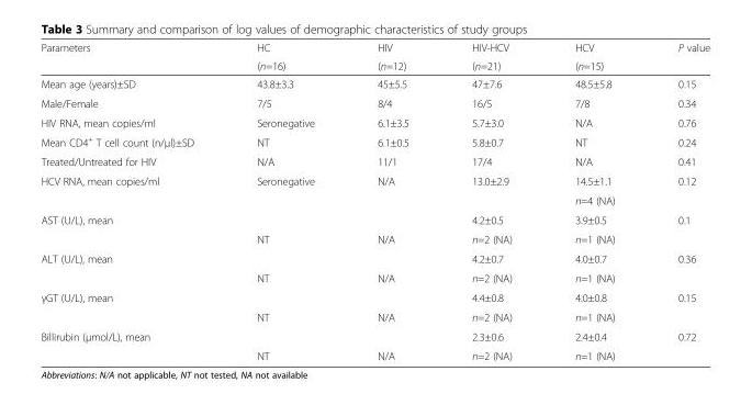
<table><thead><tr><td rowspan="2">Parameters</td><td rowspan="2">HC (n=16)</td><td rowspan="2">HIV (n=12)</td><td rowspan="2">HIV-HCV (n=21)</td><td rowspan="2">HCV (n=15)</td><td rowspan="2">P value</td></tr><tr></tr></thead><tbody><tr><td>Mean age (years)±SD</td><td>43.8±3.3</td><td>45±5.5</td><td>47±7.6</td><td>48.5±5.8</td><td>0.15</td></tr><tr><td>Male/Female</td><td>7/5</td><td>8/4</td><td>16/5</td><td>7/8</td><td>0.34</td></tr><tr><td>HIV RNA, mean copies/ml</td><td>Seronegative</td><td>6.1±3.5</td><td>5.7±3.0</td><td>N/A</td><td>0.76</td></tr><tr><td>Mean CD4<sup>+</sup> T cell count (n/µl)±SD</td><td>NT</td><td>6.1±0.5</td><td>5.8±0.7</td><td>NT</td><td>0.24</td></tr><tr><td>Treated/Untreated for HIV</td><td>N/A</td><td>11/1</td><td>17/4</td><td>N/A</td><td>0.41</td></tr><tr><td rowspan="2">HCV RNA, mean copies/ml</td><td rowspan="2">Seronegative</td><td rowspan="2">N/A</td><td rowspan="2">13.0±2.9</td><td>14.5±1.1</td><td rowspan="2">0.12</td></tr><tr><td>n=4 (NA)</td></tr><tr><td rowspan="2">AST (U/L), mean</td><td></td><td></td><td>4.2±0.5</td><td>3.9±0.5</td><td>0.1</td></tr><tr><td>NT</td><td>N/A</td><td>n=2 (NA)</td><td>n=1 (NA)</td><td></td></tr><tr><td rowspan="2">ALT (U/L), mean</td><td></td><td></td><td>4.2±0.7</td><td>4.0±0.7</td><td>0.36</td></tr><tr><td>NT</td><td>N/A</td><td>n=2 (NA)</td><td>n=1 (NA)</td><td></td></tr><tr><td rowspan="2">γGT (U/L), mean</td><td></td><td></td><td>4.4±0.8</td><td>4.0±0.8</td><td>0.15</td></tr><tr><td>NT</td><td>N/A</td><td>n=2 (NA)</td><td>n=1 (NA)</td><td></td></tr><tr><td rowspan="2">Billirubin (µmol/L), mean</td><td></td><td></td><td>2.3±0.6</td><td>2.4±0.4</td><td>0.72</td></tr><tr><td>NT</td><td>N/A</td><td>n=2 (NA)</td><td>n=1 (NA)</td><td></td></tr></tbody></table>